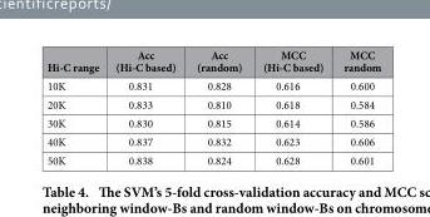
<table><thead><tr><td>Hi-C range</td><td>Acc (Hi-C based)</td><td>Acc (random)</td><td>MCC (Hi-C based)</td><td>MCC random</td></tr></thead><tbody><tr><td>10K</td><td>0.831</td><td>0.828</td><td>0.616</td><td>0.600</td></tr><tr><td>20K</td><td>0.833</td><td>0.810</td><td>0.618</td><td>0.584</td></tr><tr><td>30K</td><td>0.830</td><td>0.815</td><td>0.614</td><td>0.586</td></tr><tr><td>40K</td><td>0.837</td><td>0.832</td><td>0.623</td><td>0.606</td></tr><tr><td>50K</td><td>0.838</td><td>0.824</td><td>0.628</td><td>0.601</td></tr></tbody></table>